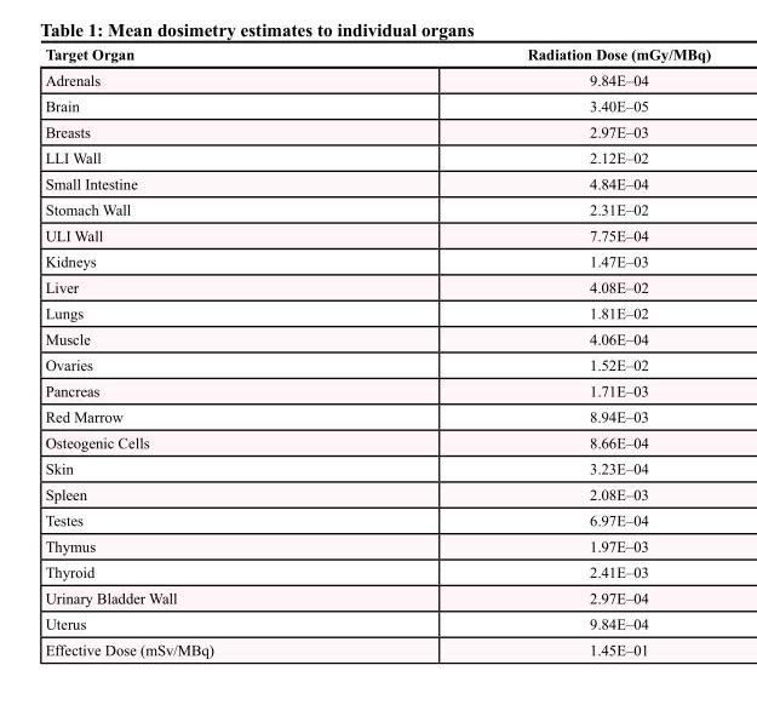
<table><thead><tr><td>Target Organ</td><td>Radiation Dose (mGy/MBq)</td></tr></thead><tbody><tr><td>Adrenals</td><td>9.84E–04</td></tr><tr><td>Brain</td><td>3.40E–05</td></tr><tr><td>Breasts</td><td>2.97E–03</td></tr><tr><td>LLI Wall</td><td>2.12E–02</td></tr><tr><td>Small Intestine</td><td>4.84E–04</td></tr><tr><td>Stomach Wall</td><td>2.31E–02</td></tr><tr><td>ULI Wall</td><td>7.75E–04</td></tr><tr><td>Kidneys</td><td>1.47E–03</td></tr><tr><td>Liver</td><td>4.08E–02</td></tr><tr><td>Lungs</td><td>1.81E–02</td></tr><tr><td>Muscle</td><td>4.06E–04</td></tr><tr><td>Ovaries</td><td>1.52E–02</td></tr><tr><td>Pancreas</td><td>1.71E–03</td></tr><tr><td>Red Marrow</td><td>8.94E–03</td></tr><tr><td>Osteogenic Cells</td><td>8.66E–04</td></tr><tr><td>Skin</td><td>3.23E–04</td></tr><tr><td>Spleen</td><td>2.08E–03</td></tr><tr><td>Testes</td><td>6.97E–04</td></tr><tr><td>Thymus</td><td>1.97E–03</td></tr><tr><td>Thyroid</td><td>2.41E–03</td></tr><tr><td>Urinary Bladder Wall</td><td>2.97E–04</td></tr><tr><td>Uterus</td><td>9.84E–04</td></tr><tr><td>Effective Dose (mSv/MBq)</td><td>1.45E–01</td></tr></tbody></table>